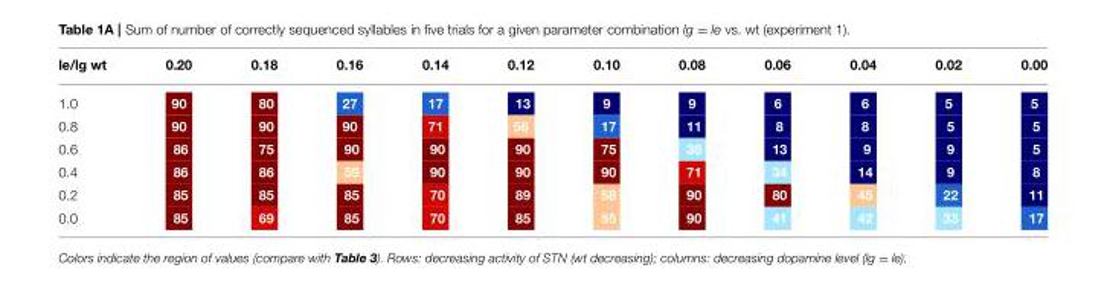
<table><thead><tr><td>le/lg wt</td><td>0.20</td><td>0.18</td><td>0.16</td><td>0.14</td><td>0.12</td><td>0.10</td><td>0.08</td><td>0.06</td><td>0.04</td><td>0.02</td><td>0.00</td></tr></thead><tbody><tr><td>1.0</td><td>90</td><td>80</td><td>27</td><td>17</td><td>13</td><td>9</td><td>9</td><td>6</td><td>6</td><td>5</td><td>5</td></tr><tr><td>0.8</td><td>90</td><td>90</td><td>90</td><td>71</td><td>56</td><td>17</td><td>11</td><td>8</td><td>8</td><td>5</td><td>5</td></tr><tr><td>0.6</td><td>86</td><td>75</td><td>90</td><td>90</td><td>90</td><td>75</td><td>36</td><td>13</td><td>9</td><td>9</td><td>5</td></tr><tr><td>0.4</td><td>86</td><td>86</td><td>59</td><td>90</td><td>90</td><td>90</td><td>71</td><td>34</td><td>14</td><td>9</td><td>8</td></tr><tr><td>0.2</td><td>85</td><td>85</td><td>85</td><td>70</td><td>89</td><td>58</td><td>90</td><td>80</td><td>45</td><td>22</td><td>11</td></tr><tr><td>0.0</td><td>85</td><td>69</td><td>85</td><td>70</td><td>85</td><td>55</td><td>90</td><td>41</td><td>42</td><td>33</td><td>17</td></tr></tbody></table>